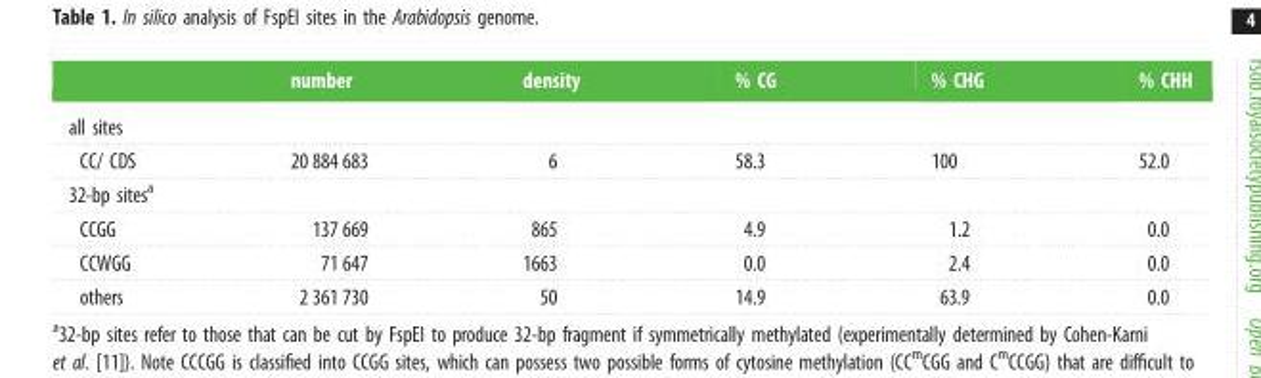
<table><thead><tr><td></td><td>number</td><td>density</td><td>% CG</td><td>% CHG</td><td>% CHH</td></tr></thead><tbody><tr><td colspan="6">all sites</td></tr><tr><td>CC/ CDS</td><td>20 884 683</td><td>6</td><td>58.3</td><td>100</td><td>52.0</td></tr><tr><td colspan="6">32-bp sites<sup>a</sup></td></tr><tr><td>CCGG</td><td>137 669</td><td>865</td><td>4.9</td><td>1.2</td><td>0.0</td></tr><tr><td>CCWGG</td><td>71 647</td><td>1663</td><td>0.0</td><td>2.4</td><td>0.0</td></tr><tr><td>others</td><td>2 361 730</td><td>50</td><td>14.9</td><td>63.9</td><td>0.0</td></tr></tbody></table>